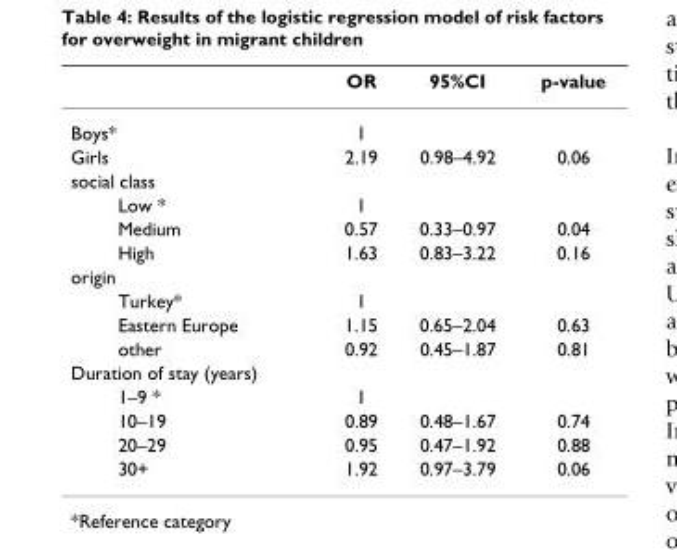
<table><thead><tr><td></td><td>OR</td><td>95%CI</td><td>p-value</td></tr></thead><tbody><tr><td>Boys*</td><td>1</td><td></td><td></td></tr><tr><td>Girls</td><td>2.19</td><td>0.98–4.92</td><td>0.06</td></tr><tr><td colspan="4">social class</td></tr><tr><td>Low *</td><td>1</td><td></td><td></td></tr><tr><td>Medium</td><td>0.57</td><td>0.33–0.97</td><td>0.04</td></tr><tr><td>High</td><td>1.63</td><td>0.83–3.22</td><td>0.16</td></tr><tr><td colspan="4">origin</td></tr><tr><td>Turkey*</td><td>1</td><td></td><td></td></tr><tr><td>Eastern Europe</td><td>1.15</td><td>0.65–2.04</td><td>0.63</td></tr><tr><td>other</td><td>0.92</td><td>0.45–1.87</td><td>0.81</td></tr><tr><td colspan="4">Duration of stay (years)</td></tr><tr><td>1–9 *</td><td>1</td><td></td><td></td></tr><tr><td>10–19</td><td>0.89</td><td>0.48–1.67</td><td>0.74</td></tr><tr><td>20–29</td><td>0.95</td><td>0.47–1.92</td><td>0.88</td></tr><tr><td>30+</td><td>1.92</td><td>0.97–3.79</td><td>0.06</td></tr></tbody></table>